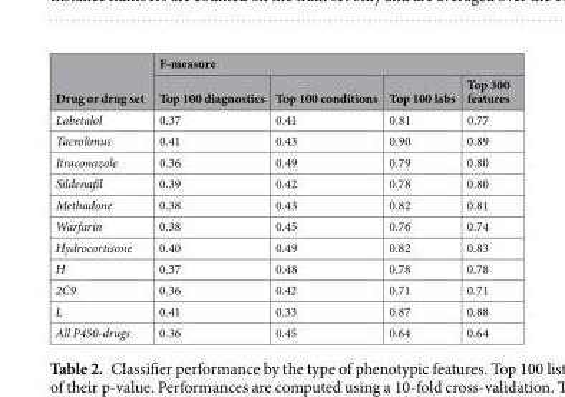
<table><thead><tr><td rowspan="2">Drug or drug set</td><td colspan="4">F-measure</td></tr><tr><td>Top 100 diagnostics</td><td>Top 100 conditions</td><td>Top 100 labs</td><td>Top 300 features</td></tr></thead><tbody><tr><td>Labetalol</td><td>0.37</td><td>0.41</td><td>0.81</td><td>0.77</td></tr><tr><td>Tacrolimus</td><td>0.41</td><td>0.43</td><td>0.90</td><td>0.89</td></tr><tr><td>Itraconazole</td><td>0.36</td><td>0.49</td><td>0.79</td><td>0.80</td></tr><tr><td>Sildenafil</td><td>0.39</td><td>0.42</td><td>0.78</td><td>0.80</td></tr><tr><td>Methadone</td><td>0.38</td><td>0.43</td><td>0.82</td><td>0.81</td></tr><tr><td>Warfarin</td><td>0.38</td><td>0.45</td><td>0.76</td><td>0.74</td></tr><tr><td>Hydrocortisone</td><td>0.40</td><td>0.49</td><td>0.82</td><td>0.83</td></tr><tr><td>H</td><td>0.37</td><td>0.48</td><td>0.78</td><td>0.78</td></tr><tr><td>2C9</td><td>0.36</td><td>0.42</td><td>0.71</td><td>0.71</td></tr><tr><td>L</td><td>0.41</td><td>0.33</td><td>0.87</td><td>0.88</td></tr><tr><td>All P450-drugs</td><td>0.36</td><td>0.45</td><td>0.64</td><td>0.64</td></tr></tbody></table>